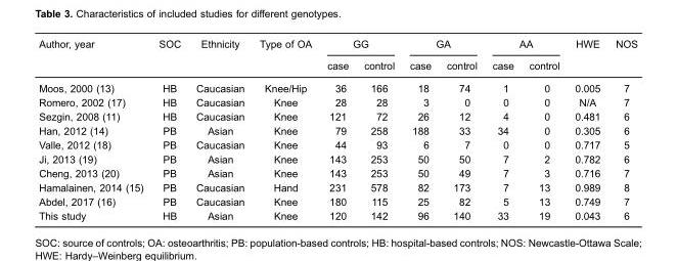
<table><thead><tr><td rowspan="2">Author, year</td><td rowspan="2">SOC</td><td rowspan="2">Ethnicity</td><td rowspan="2">Type of OA</td><td colspan="2">GG</td><td colspan="2">GA</td><td colspan="2">AA</td><td rowspan="2">HWE</td><td rowspan="2">NOS</td></tr><tr><td>case</td><td>control</td><td>case</td><td>control</td><td>case</td><td>control</td></tr></thead><tbody><tr><td>Moos, 2000 (13)</td><td>HB</td><td>Caucasian</td><td>Knee/Hip</td><td>36</td><td>166</td><td>18</td><td>74</td><td>1</td><td>0</td><td>0.005</td><td>7</td></tr><tr><td>Romero, 2002 (17)</td><td>HB</td><td>Caucasian</td><td>Knee</td><td>28</td><td>28</td><td>3</td><td>0</td><td>0</td><td>0</td><td>N/A</td><td>7</td></tr><tr><td>Sezgin, 2008 (11)</td><td>HB</td><td>Caucasian</td><td>Knee</td><td>121</td><td>72</td><td>26</td><td>12</td><td>4</td><td>0</td><td>0.481</td><td>6</td></tr><tr><td>Han, 2012 (14)</td><td>PB</td><td>Asian</td><td>Knee</td><td>79</td><td>258</td><td>188</td><td>33</td><td>34</td><td>0</td><td>0.305</td><td>6</td></tr><tr><td>Valle, 2012 (18)</td><td>PB</td><td>Caucasian</td><td>Knee</td><td>44</td><td>93</td><td>6</td><td>7</td><td>0</td><td>0</td><td>0.717</td><td>5</td></tr><tr><td>Ji, 2013 (19)</td><td>PB</td><td>Asian</td><td>Knee</td><td>143</td><td>253</td><td>50</td><td>50</td><td>7</td><td>2</td><td>0.782</td><td>6</td></tr><tr><td>Cheng, 2013 (20)</td><td>PB</td><td>Asian</td><td>Knee</td><td>143</td><td>253</td><td>50</td><td>49</td><td>7</td><td>3</td><td>0.716</td><td>7</td></tr><tr><td>Hamalainen, 2014 (15)</td><td>PB</td><td>Caucasian</td><td>Hand</td><td>231</td><td>578</td><td>82</td><td>173</td><td>7</td><td>13</td><td>0.989</td><td>8</td></tr><tr><td>Abdel, 2017 (16)</td><td>PB</td><td>Caucasian</td><td>Knee</td><td>180</td><td>115</td><td>25</td><td>82</td><td>5</td><td>13</td><td>0.749</td><td>7</td></tr><tr><td>This study</td><td>HB</td><td>Asian</td><td>Knee</td><td>120</td><td>142</td><td>96</td><td>140</td><td>33</td><td>19</td><td>0.043</td><td>6</td></tr></tbody></table>